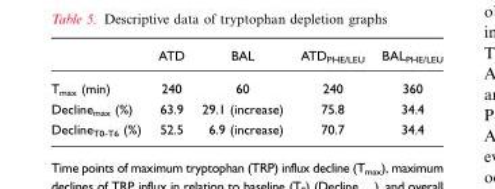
<table><thead><tr><td></td><td>ATD</td><td>BAL</td><td>ATD<sub>PHE/LEU</sub></td><td>BAL<sub>PHE/LEU</sub></td></tr></thead><tbody><tr><td>T<sub>max</sub> (min)</td><td>240</td><td>60</td><td>240</td><td>360</td></tr><tr><td>Decline<sub>max</sub> (%)</td><td>63.9</td><td>29.1 (increase)</td><td>75.8</td><td>34.4</td></tr><tr><td>Decline<sub>T0-T6</sub> (%)</td><td>52.5</td><td>6.9 (increase)</td><td>70.7</td><td>34.4</td></tr></tbody></table>